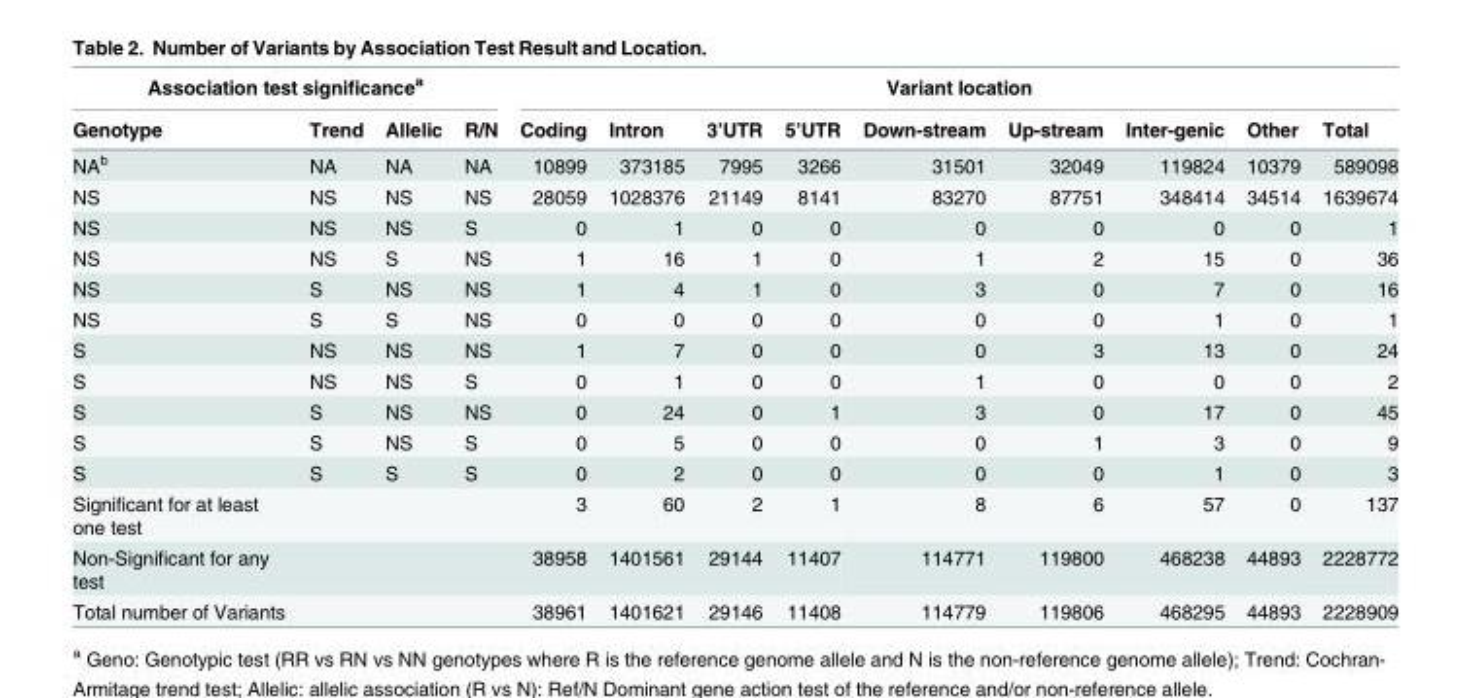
<table><thead><tr><td colspan="4">Association test significance<sup>a</sup></td><td colspan="9">Variant location</td></tr><tr><td>Genotype</td><td>Trend</td><td>Allelic</td><td>R/N</td><td>Coding</td><td>Intron</td><td>3’UTR</td><td>5’UTR</td><td>Down-stream</td><td>Up-stream</td><td>Inter-genic</td><td>Other</td><td>Total</td></tr></thead><tbody><tr><td>NA<sup>b</sup></td><td>NA</td><td>NA</td><td>NA</td><td>10899</td><td>373185</td><td>7995</td><td>3266</td><td>31501</td><td>32049</td><td>119824</td><td>10379</td><td>589098</td></tr><tr><td>NS</td><td>NS</td><td>NS</td><td>NS</td><td>28059</td><td>1028376</td><td>21149</td><td>8141</td><td>83270</td><td>87751</td><td>348414</td><td>34514</td><td>1639674</td></tr><tr><td>NS</td><td>NS</td><td>NS</td><td>S</td><td>0</td><td>1</td><td>0</td><td>0</td><td>0</td><td>0</td><td>0</td><td>0</td><td>1</td></tr><tr><td>NS</td><td>NS</td><td>S</td><td>NS</td><td>1</td><td>16</td><td>1</td><td>0</td><td>1</td><td>2</td><td>15</td><td>0</td><td>36</td></tr><tr><td>NS</td><td>S</td><td>NS</td><td>NS</td><td>1</td><td>4</td><td>1</td><td>0</td><td>3</td><td>0</td><td>7</td><td>0</td><td>16</td></tr><tr><td>NS</td><td>S</td><td>S</td><td>NS</td><td>0</td><td>0</td><td>0</td><td>0</td><td>0</td><td>0</td><td>1</td><td>0</td><td>1</td></tr><tr><td>S</td><td>NS</td><td>NS</td><td>NS</td><td>1</td><td>7</td><td>0</td><td>0</td><td>0</td><td>3</td><td>13</td><td>0</td><td>24</td></tr><tr><td>S</td><td>NS</td><td>NS</td><td>S</td><td>0</td><td>1</td><td>0</td><td>0</td><td>1</td><td>0</td><td>0</td><td>0</td><td>2</td></tr><tr><td>S</td><td>S</td><td>NS</td><td>NS</td><td>0</td><td>24</td><td>0</td><td>1</td><td>3</td><td>0</td><td>17</td><td>0</td><td>45</td></tr><tr><td>S</td><td>S</td><td>NS</td><td>S</td><td>0</td><td>5</td><td>0</td><td>0</td><td>0</td><td>1</td><td>3</td><td>0</td><td>9</td></tr><tr><td>S</td><td>S</td><td>S</td><td>S</td><td>0</td><td>2</td><td>0</td><td>0</td><td>0</td><td>0</td><td>1</td><td>0</td><td>3</td></tr><tr><td>Significant for at least one test</td><td></td><td></td><td></td><td>3</td><td>60</td><td>2</td><td>1</td><td>8</td><td>6</td><td>57</td><td>0</td><td>137</td></tr><tr><td>Non-Significant for any test</td><td></td><td></td><td></td><td>38958</td><td>1401561</td><td>29144</td><td>11407</td><td>114771</td><td>119800</td><td>468238</td><td>44893</td><td>2228772</td></tr><tr><td>Total number of Variants</td><td></td><td></td><td></td><td>38961</td><td>1401621</td><td>29146</td><td>11408</td><td>114779</td><td>119806</td><td>468295</td><td>44893</td><td>2228909</td></tr></tbody></table>